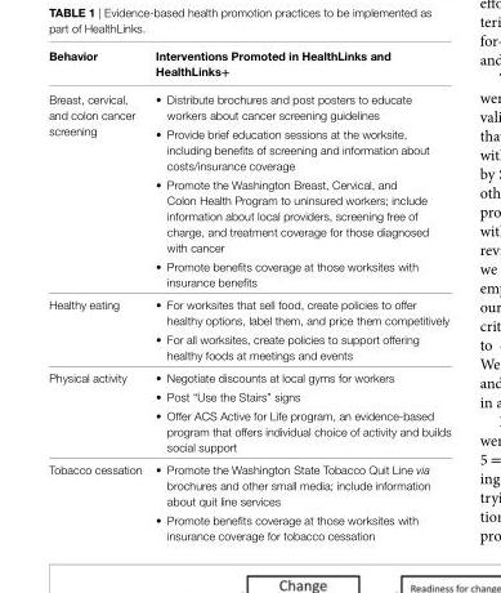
<table><thead><tr><td>behavior</td><td>interventions Promoted in healthlinks and healthlinks+</td></tr></thead><tbody><tr><td>Breast, cervical, and colon cancer screening</td><td>• Distribute brochures and post posters to educate workers about cancer screening guidelines • Provide brief education sessions at the worksite, including benefits of screening and information about costs/insurance coverage • Promote the Washington Breast, Cervical, and Colon Health Program to uninsured workers; include information about local providers, screening free of charge, and treatment coverage for those diagnosed with cancer • Promote benefits coverage at those worksites with insurance benefits</td></tr><tr><td>Healthy eating</td><td>• For worksites that sell food, create policies to offer healthy options, label them, and price them competitively • For all worksites, create policies to support offering healthy foods at meetings and events</td></tr><tr><td>Physical activity</td><td>• Negotiate discounts at local gyms for workers • Post “Use the Stairs” signs • Offer ACS Active for Life program, an evidence-based program that offers individual choice of activity and builds social support</td></tr><tr><td>Tobacco cessation</td><td>• Promote the Washington State Tobacco Quit Line via brochures and other small media; include information about quit line services • Promote benefits coverage at those worksites with insurance coverage for tobacco cessation</td></tr></tbody></table>